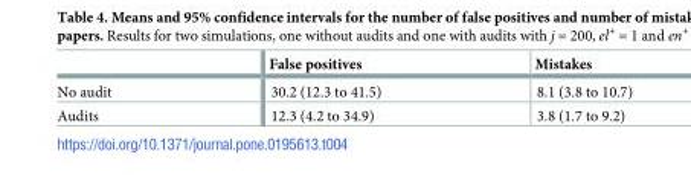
<table><thead><tr><td></td><td>False positives</td><td>Mistakes</td></tr></thead><tbody><tr><td>No audit</td><td>30.2 (12.3 to 41.5)</td><td>8.1 (3.8 to 10.7)</td></tr><tr><td>Audits</td><td>12.3 (4.2 to 34.9)</td><td>3.8 (1.7 to 9.2)</td></tr></tbody></table>